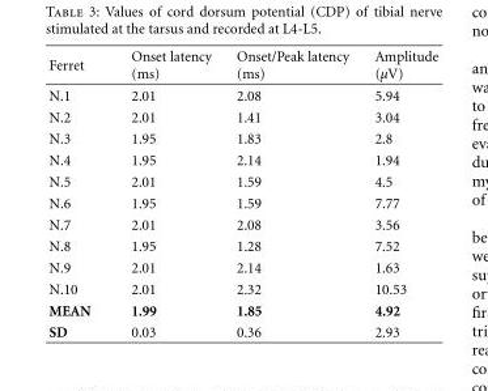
<table><thead><tr><td>Ferret</td><td>Onset latency (ms)</td><td>Onset/Peak latency (ms)</td><td>Amplitude (μV)</td></tr></thead><tbody><tr><td>N.1</td><td>2.01</td><td>2.08</td><td>5.94</td></tr><tr><td>N.2</td><td>2.01</td><td>1.41</td><td>3.04</td></tr><tr><td>N.3</td><td>1.95</td><td>1.83</td><td>2.8</td></tr><tr><td>N.4</td><td>1.95</td><td>2.14</td><td>1.94</td></tr><tr><td>N.5</td><td>2.01</td><td>1.59</td><td>4.5</td></tr><tr><td>N.6</td><td>1.95</td><td>1.59</td><td>7.77</td></tr><tr><td>N.7</td><td>2.01</td><td>2.08</td><td>3.56</td></tr><tr><td>N.8</td><td>1.95</td><td>1.28</td><td>7.52</td></tr><tr><td>N.9</td><td>2.01</td><td>2.14</td><td>1.63</td></tr><tr><td>N.10</td><td>2.01</td><td>2.32</td><td>10.53</td></tr><tr><td>MEAN</td><td>1.99</td><td>1.85</td><td>4.92</td></tr><tr><td>SD</td><td>0.03</td><td>0.36</td><td>2.93</td></tr></tbody></table>